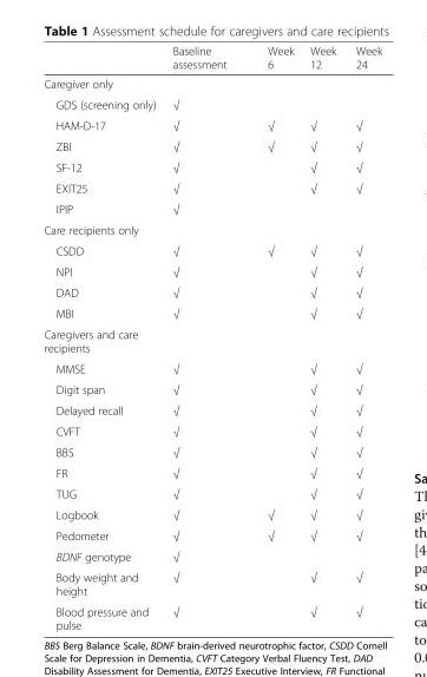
<table><thead><tr><td></td><td>Baseline assessment</td><td>Week 6</td><td>Week 12</td><td>Week 24</td></tr></thead><tbody><tr><td colspan="5">Caregiver only</td></tr><tr><td>GDS (screening only)</td><td>√</td><td></td><td></td><td></td></tr><tr><td>HAM-D-17</td><td>√</td><td>√</td><td>√</td><td>√</td></tr><tr><td>ZBI</td><td>√</td><td>√</td><td>√</td><td>√</td></tr><tr><td>SF-12</td><td>√</td><td></td><td>√</td><td>√</td></tr><tr><td>EXIT25</td><td>√</td><td></td><td>√</td><td>√</td></tr><tr><td>IPIP</td><td>√</td><td></td><td></td><td></td></tr><tr><td colspan="5">Care recipients only</td></tr><tr><td>CSDD</td><td>√</td><td>√</td><td>√</td><td>√</td></tr><tr><td>NPI</td><td>√</td><td></td><td>√</td><td>√</td></tr><tr><td>DAD</td><td>√</td><td></td><td>√</td><td>√</td></tr><tr><td>MBI</td><td>√</td><td></td><td>√</td><td>√</td></tr><tr><td colspan="5">Caregivers and care recipients</td></tr><tr><td>MMSE</td><td>√</td><td></td><td>√</td><td>√</td></tr><tr><td>Digit span</td><td>√</td><td></td><td>√</td><td>√</td></tr><tr><td>Delayed recall</td><td>√</td><td></td><td>√</td><td>√</td></tr><tr><td>CVFT</td><td>√</td><td></td><td>√</td><td>√</td></tr><tr><td>BBS</td><td>√</td><td></td><td>√</td><td>√</td></tr><tr><td>FR</td><td>√</td><td></td><td>√</td><td>√</td></tr><tr><td>TUG</td><td>√</td><td></td><td>√</td><td>√</td></tr><tr><td>Logbook</td><td>√</td><td>√</td><td>√</td><td>√</td></tr><tr><td>Pedometer</td><td>√</td><td>√</td><td>√</td><td>√</td></tr><tr><td>BDNF genotype</td><td>√</td><td></td><td></td><td></td></tr><tr><td>Body weight and height</td><td>√</td><td></td><td>√</td><td>√</td></tr><tr><td>Blood pressure and pulse</td><td>√</td><td></td><td>√</td><td>√</td></tr></tbody></table>